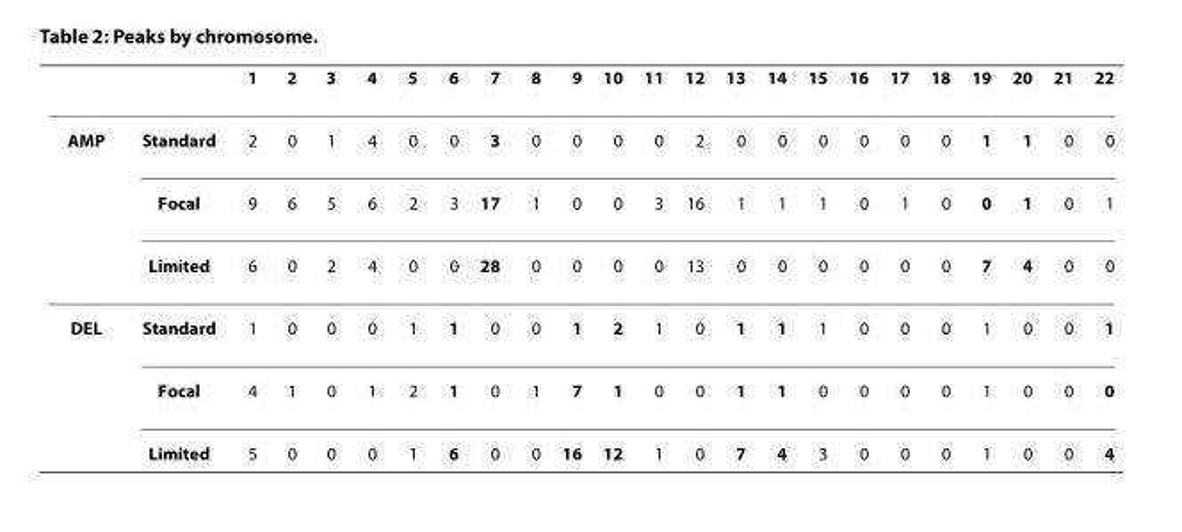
<table><thead><tr><td></td><td></td><td>1</td><td>2</td><td>3</td><td>4</td><td>5</td><td>6</td><td>7</td><td>8</td><td>9</td><td>10</td><td>11</td><td>12</td><td>13</td><td>14</td><td>15</td><td>16</td><td>17</td><td>18</td><td>19</td><td>20</td><td>21</td><td>22</td></tr></thead><tbody><tr><td rowspan="3">AMP</td><td>Standard</td><td>2</td><td>0</td><td>1</td><td>4</td><td>0</td><td>0</td><td>3</td><td>0</td><td>0</td><td>0</td><td>0</td><td>2</td><td>0</td><td>0</td><td>0</td><td>0</td><td>0</td><td>0</td><td>1</td><td>1</td><td>0</td><td>0</td></tr><tr><td>Focal</td><td>9</td><td>6</td><td>5</td><td>6</td><td>2</td><td>3</td><td>17</td><td>1</td><td>0</td><td>0</td><td>3</td><td>16</td><td>1</td><td>1</td><td>1</td><td>0</td><td>1</td><td>0</td><td>0</td><td>1</td><td>0</td><td>1</td></tr><tr><td>Limited</td><td>6</td><td>0</td><td>2</td><td>4</td><td>0</td><td>0</td><td>28</td><td>0</td><td>0</td><td>0</td><td>0</td><td>13</td><td>0</td><td>0</td><td>0</td><td>0</td><td>0</td><td>0</td><td>7</td><td>4</td><td>0</td><td>0</td></tr><tr><td rowspan="3">DEL</td><td>Standard</td><td>1</td><td>0</td><td>0</td><td>0</td><td>1</td><td>1</td><td>0</td><td>0</td><td>1</td><td>2</td><td>1</td><td>0</td><td>1</td><td>1</td><td>1</td><td>0</td><td>0</td><td>0</td><td>1</td><td>0</td><td>0</td><td>1</td></tr><tr><td>Focal</td><td>4</td><td>1</td><td>0</td><td>1</td><td>2</td><td>1</td><td>0</td><td>1</td><td>7</td><td>1</td><td>0</td><td>0</td><td>1</td><td>1</td><td>0</td><td>0</td><td>0</td><td>0</td><td>1</td><td>0</td><td>0</td><td>0</td></tr><tr><td>Limited</td><td>5</td><td>0</td><td>0</td><td>0</td><td>1</td><td>6</td><td>0</td><td>0</td><td>16</td><td>12</td><td>1</td><td>0</td><td>7</td><td>4</td><td>3</td><td>0</td><td>0</td><td>0</td><td>1</td><td>0</td><td>0</td><td>4</td></tr></tbody></table>